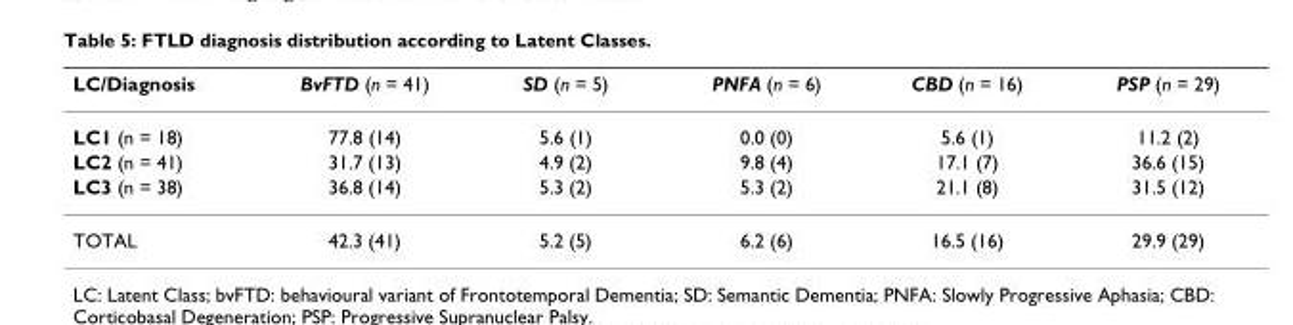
<table><thead><tr><td>LC/Diagnosis</td><td>BvFTD (n = 41)</td><td>SD (n = 5)</td><td>PNFA (n = 6)</td><td>CBD (n = 16)</td><td>PSP (n = 29)</td></tr></thead><tbody><tr><td>LC1 (n = 18)</td><td>77.8 (14)</td><td>5.6 (1)</td><td>0.0 (0)</td><td>5.6 (1)</td><td>11.2 (2)</td></tr><tr><td>LC2 (n = 41)</td><td>31.7 (13)</td><td>4.9 (2)</td><td>9.8 (4)</td><td>17.1 (7)</td><td>36.6 (15)</td></tr><tr><td>LC3 (n = 38)</td><td>36.8 (14)</td><td>5.3 (2)</td><td>5.3 (2)</td><td>21.1 (8)</td><td>31.5 (12)</td></tr><tr><td>TOTAL</td><td>42.3 (41)</td><td>5.2 (5)</td><td>6.2 (6)</td><td>16.5 (16)</td><td>29.9 (29)</td></tr></tbody></table>